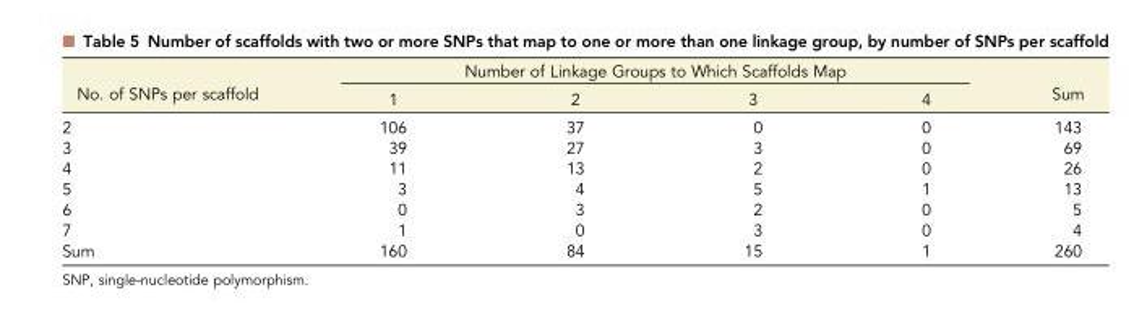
<table><thead><tr><td rowspan="2">No. of SNPs per scaffold</td><td colspan="4">Number of Linkage Groups to Which Scaffolds Map</td><td rowspan="2">Sum</td></tr><tr><td>1</td><td>2</td><td>3</td><td>4</td></tr></thead><tbody><tr><td>2</td><td>106</td><td>37</td><td>0</td><td>0</td><td>143</td></tr><tr><td>3</td><td>39</td><td>27</td><td>3</td><td>0</td><td>69</td></tr><tr><td>4</td><td>11</td><td>13</td><td>2</td><td>0</td><td>26</td></tr><tr><td>5</td><td>3</td><td>4</td><td>5</td><td>1</td><td>13</td></tr><tr><td>6</td><td>0</td><td>3</td><td>2</td><td>0</td><td>5</td></tr><tr><td>7</td><td>1</td><td>0</td><td>3</td><td>0</td><td>4</td></tr><tr><td>Sum</td><td>160</td><td>84</td><td>15</td><td>1</td><td>260</td></tr></tbody></table>